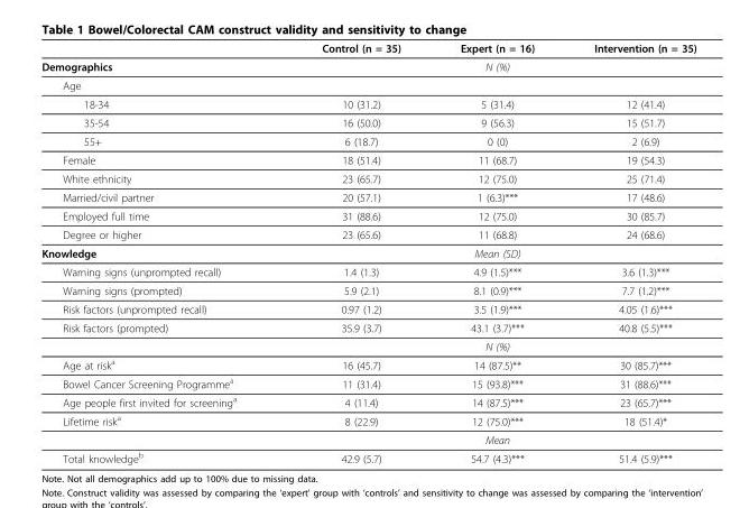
<table><thead><tr><td></td><td>Control (n = 35)</td><td>Expert (n = 16)</td><td>Intervention (n = 35)</td></tr></thead><tbody><tr><td>Demographics</td><td></td><td>N (%)</td><td></td></tr><tr><td colspan="4">Age</td></tr><tr><td>18-34</td><td>10 (31.2)</td><td>5 (31.4)</td><td>12 (41.4)</td></tr><tr><td>35-54</td><td>16 (50.0)</td><td>9 (56.3)</td><td>15 (51.7)</td></tr><tr><td>55+</td><td>6 (18.7)</td><td>0 (0)</td><td>2 (6.9)</td></tr><tr><td>Female</td><td>18 (51.4)</td><td>11 (68.7)</td><td>19 (54.3)</td></tr><tr><td>White ethnicity</td><td>23 (65.7)</td><td>12 (75.0)</td><td>25 (71.4)</td></tr><tr><td>Married/civil partner</td><td>20 (57.1)</td><td>1 (6.3)***</td><td>17 (48.6)</td></tr><tr><td>Employed full time</td><td>31 (88.6)</td><td>12 (75.0)</td><td>30 (85.7)</td></tr><tr><td>Degree or higher</td><td>23 (65.6)</td><td>11 (68.8)</td><td>24 (68.6)</td></tr><tr><td>Knowledge</td><td></td><td>Mean (SD)</td><td></td></tr><tr><td>Warning signs (unprompted recall)</td><td>1.4 (1.3)</td><td>4.9 (1.5)***</td><td>3.6 (1.3)***</td></tr><tr><td>Warning signs (prompted)</td><td>5.9 (2.1)</td><td>8.1 (0.9)***</td><td>7.7 (1.2)***</td></tr><tr><td>Risk factors (unprompted recall)</td><td>0.97 (1.2)</td><td>3.5 (1.9)***</td><td>4.05 (1.6)***</td></tr><tr><td rowspan="2">Risk factors (prompted)</td><td>35.9 (3.7)</td><td>43.1 (3.7)***</td><td>40.8 (5.5)***</td></tr><tr><td></td><td>N (%)</td><td></td></tr><tr><td>Age at risk<sup>a</sup></td><td>16 (45.7)</td><td>14 (87.5)**</td><td>30 (85.7)***</td></tr><tr><td>Bowel Cancer Screening Programme<sup>a</sup></td><td>11 (31.4)</td><td>15 (93.8)***</td><td>31 (88.6)***</td></tr><tr><td>Age people first invited for screening<sup>a</sup></td><td>4 (11.4)</td><td>14 (87.5)***</td><td>23 (65.7)***</td></tr><tr><td rowspan="2">Lifetime risk<sup>a</sup></td><td>8 (22.9)</td><td>12 (75.0)***</td><td>18 (51.4)*</td></tr><tr><td></td><td>Mean</td><td></td></tr><tr><td>Total knowledge<sup>b</sup></td><td>42.9 (5.7)</td><td>54.7 (4.3)***</td><td>51.4 (5.9)***</td></tr></tbody></table>